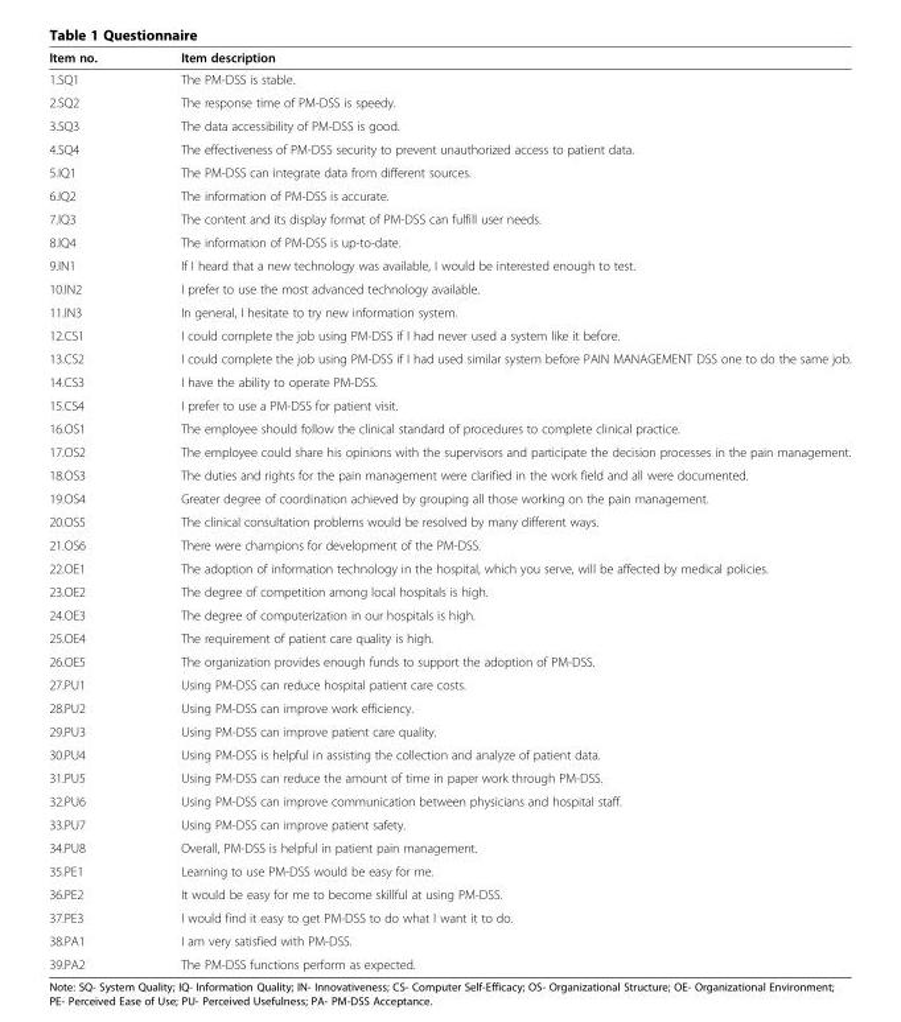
<table><thead><tr><td>Item no.</td><td>Item description</td></tr></thead><tbody><tr><td>1.SQ1</td><td>The PM-DSS is stable.</td></tr><tr><td>2.SQ2</td><td>The response time of PM-DSS is speedy.</td></tr><tr><td>3.SQ3</td><td>The data accessibility of PM-DSS is good.</td></tr><tr><td>4.SQ4</td><td>The effectiveness of PM-DSS security to prevent unauthorized access to patient data.</td></tr><tr><td>5.IQ1</td><td>The PM-DSS can integrate data from different sources.</td></tr><tr><td>6.IQ2</td><td>The information of PM-DSS is accurate.</td></tr><tr><td>7.IQ3</td><td>The content and its display format of PM-DSS can fulfill user needs.</td></tr><tr><td>8.IQ4</td><td>The information of PM-DSS is up-to-date.</td></tr><tr><td>9.IN1</td><td>If I heard that a new technology was available, I would be interested enough to test.</td></tr><tr><td>10.IN2</td><td>I prefer to use the most advanced technology available.</td></tr><tr><td>11.IN3</td><td>In general, I hesitate to try new information system.</td></tr><tr><td>12.CS1</td><td>I could complete the job using PM-DSS if I had never used a system like it before.</td></tr><tr><td>13.CS2</td><td>I could complete the job using PM-DSS if I had used similar system before PAIN MANAGEMENT DSS one to do the same job.</td></tr><tr><td>14.CS3</td><td>I have the ability to operate PM-DSS.</td></tr><tr><td>15.CS4</td><td>I prefer to use a PM-DSS for patient visit.</td></tr><tr><td>16.OS1</td><td>The employee should follow the clinical standard of procedures to complete clinical practice.</td></tr><tr><td>17.OS2</td><td>The employee could share his opinions with the supervisors and participate the decision processes in the pain management.</td></tr><tr><td>18.OS3</td><td>The duties and rights for the pain management were clarified in the work field and all were documented.</td></tr><tr><td>19.OS4</td><td>Greater degree of coordination achieved by grouping all those working on the pain management.</td></tr><tr><td>20.OS5</td><td>The clinical consultation problems would be resolved by many different ways.</td></tr><tr><td>21.OS6</td><td>There were champions for development of the PM-DSS.</td></tr><tr><td>22.OE1</td><td>The adoption of information technology in the hospital, which you serve, will be affected by medical policies.</td></tr><tr><td>23.OE2</td><td>The degree of competition among local hospitals is high.</td></tr><tr><td>24.OE3</td><td>The degree of computerization in our hospitals is high.</td></tr><tr><td>25.OE4</td><td>The requirement of patient care quality is high.</td></tr><tr><td>26.OE5</td><td>The organization provides enough funds to support the adoption of PM-DSS.</td></tr><tr><td>27.PU1</td><td>Using PM-DSS can reduce hospital patient care costs.</td></tr><tr><td>28.PU2</td><td>Using PM-DSS can improve work efficiency.</td></tr><tr><td>29.PU3</td><td>Using PM-DSS can improve patient care quality.</td></tr><tr><td>30.PU4</td><td>Using PM-DSS is helpful in assisting the collection and analyze of patient data.</td></tr><tr><td>31.PU5</td><td>Using PM-DSS can reduce the amount of time in paper work through PM-DSS.</td></tr><tr><td>32.PU6</td><td>Using PM-DSS can improve communication between physicians and hospital staff.</td></tr><tr><td>33.PU7</td><td>Using PM-DSS can improve patient safety.</td></tr><tr><td>34.PU8</td><td>Overall, PM-DSS is helpful in patient pain management.</td></tr><tr><td>35.PE1</td><td>Learning to use PM-DSS would be easy for me.</td></tr><tr><td>36.PE2</td><td>It would be easy for me to become skillful at using PM-DSS.</td></tr><tr><td>37.PE3</td><td>I would find it easy to get PM-DSS to do what I want it to do.</td></tr><tr><td>38.PA1</td><td>I am very satisfied with PM-DSS.</td></tr><tr><td>39.PA2</td><td>The PM-DSS functions perform as expected.</td></tr></tbody></table>